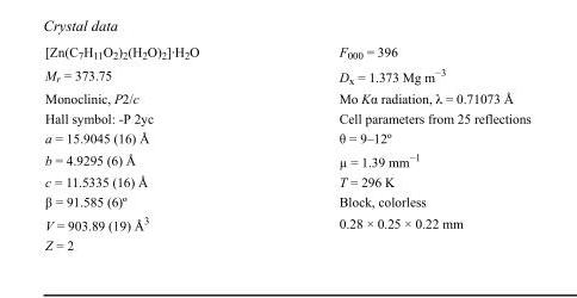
<table><tbody><tr><td>[Zn(C<sub>7</sub>H<sub>11</sub>O<sub>2</sub>)<sub>2</sub>(H<sub>2</sub>O)<sub>2</sub>]·H<sub>2</sub>O</td><td>F000 = 396</td></tr><tr><td>M<sub>r</sub> = 373.75</td><td>D<sub>x</sub> = 1.373 Mg m<sup>−3</sup></td></tr><tr><td>Monoclinic, P2/c</td><td>Mo Kα radiation, λ = 0.71073 Å</td></tr><tr><td>Hall symbol: -P 2yc</td><td>Cell parameters from 25 reflections</td></tr><tr><td>a = 15.9045 (16) Å</td><td>θ = 9–12º</td></tr><tr><td>b = 4.9295 (6) Å</td><td>µ = 1.39 mm<sup>−1</sup></td></tr><tr><td>c = 11.5335 (16) Å</td><td>T = 296 K</td></tr><tr><td>β = 91.585 (6)º</td><td>Block, colorless</td></tr><tr><td>V = 903.89 (19) Å<sup>3</sup></td><td>0.28 × 0.25 × 0.22 mm</td></tr><tr><td>Z = 2</td><td></td></tr></tbody></table>